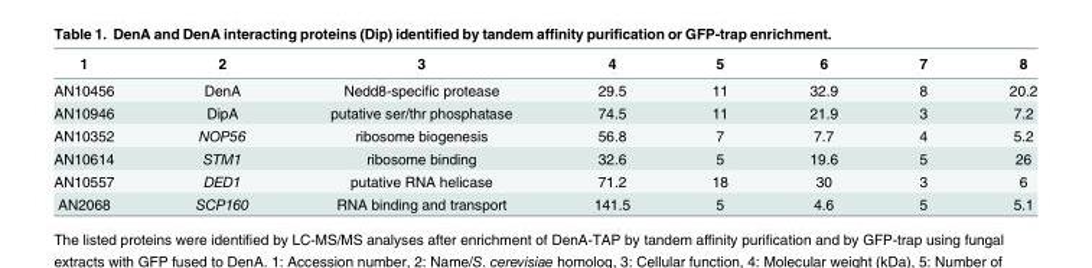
<table><thead><tr><td>1</td><td>2</td><td>3</td><td>4</td><td>5</td><td>6</td><td>7</td><td>8</td></tr></thead><tbody><tr><td>AN10456</td><td>DenA</td><td>Nedd8-specific protease</td><td>29.5</td><td>11</td><td>32.9</td><td>8</td><td>20.2</td></tr><tr><td>AN10946</td><td>DipA</td><td>putative ser/thr phosphatase</td><td>74.5</td><td>11</td><td>21.9</td><td>3</td><td>7.2</td></tr><tr><td>AN10352</td><td>NOP56</td><td>ribosome biogenesis</td><td>56.8</td><td>7</td><td>7.7</td><td>4</td><td>5.2</td></tr><tr><td>AN10614</td><td>STM1</td><td>ribosome binding</td><td>32.6</td><td>5</td><td>19.6</td><td>5</td><td>26</td></tr><tr><td>AN10557</td><td>DED1</td><td>putative RNA helicase</td><td>71.2</td><td>18</td><td>30</td><td>3</td><td>6</td></tr><tr><td>AN2068</td><td>SCP160</td><td>RNA binding and transport</td><td>141.5</td><td>5</td><td>4.6</td><td>5</td><td>5.1</td></tr></tbody></table>